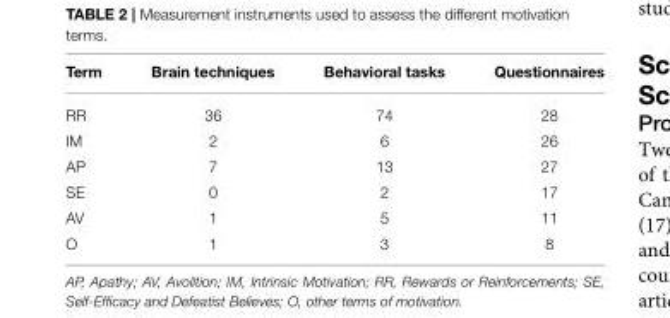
<table><thead><tr><td>Term</td><td>Brain techniques</td><td>Behavioral tasks</td><td>Questionnaires</td></tr></thead><tbody><tr><td>RR</td><td>36</td><td>74</td><td>28</td></tr><tr><td>IM</td><td>2</td><td>6</td><td>26</td></tr><tr><td>AP</td><td>7</td><td>13</td><td>27</td></tr><tr><td>SE</td><td>0</td><td>2</td><td>17</td></tr><tr><td>AV</td><td>1</td><td>5</td><td>11</td></tr><tr><td>O</td><td>1</td><td>3</td><td>8</td></tr></tbody></table>